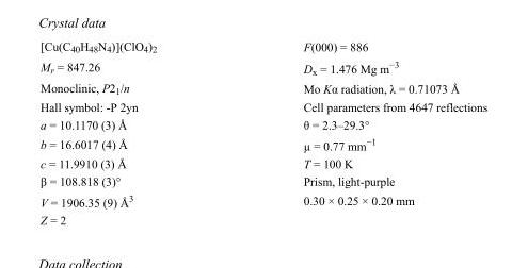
<table><tbody><tr><td>[Cu(C<sub>40</sub>H<sub>48</sub>N<sub>4</sub>)](ClO<sub>4</sub>)<sub>2</sub></td><td>F(000) = 886</td></tr><tr><td>M<sub>r</sub> = 847.26</td><td>D<sub>x</sub> = 1.476 Mg m<sup>−3</sup></td></tr><tr><td>Monoclinic, P2<sub>1</sub>/n</td><td>Mo Kα radiation, λ = 0.71073 Å</td></tr><tr><td>Hall symbol: -P 2yn</td><td>Cell parameters from 4647 reflections</td></tr><tr><td>a = 10.1170 (3) Å</td><td>θ = 2.3–29.3°</td></tr><tr><td>b = 16.6017 (4) Å</td><td>µ = 0.77 mm<sup>−1</sup></td></tr><tr><td>c = 11.9910 (3) Å</td><td>T = 100 K</td></tr><tr><td>β = 108.818 (3)°</td><td>Prism, light-purple</td></tr><tr><td>V = 1906.35 (9) Å<sup>3</sup></td><td>0.30 × 0.25 × 0.20 mm</td></tr><tr><td>Z = 2</td><td></td></tr></tbody></table>